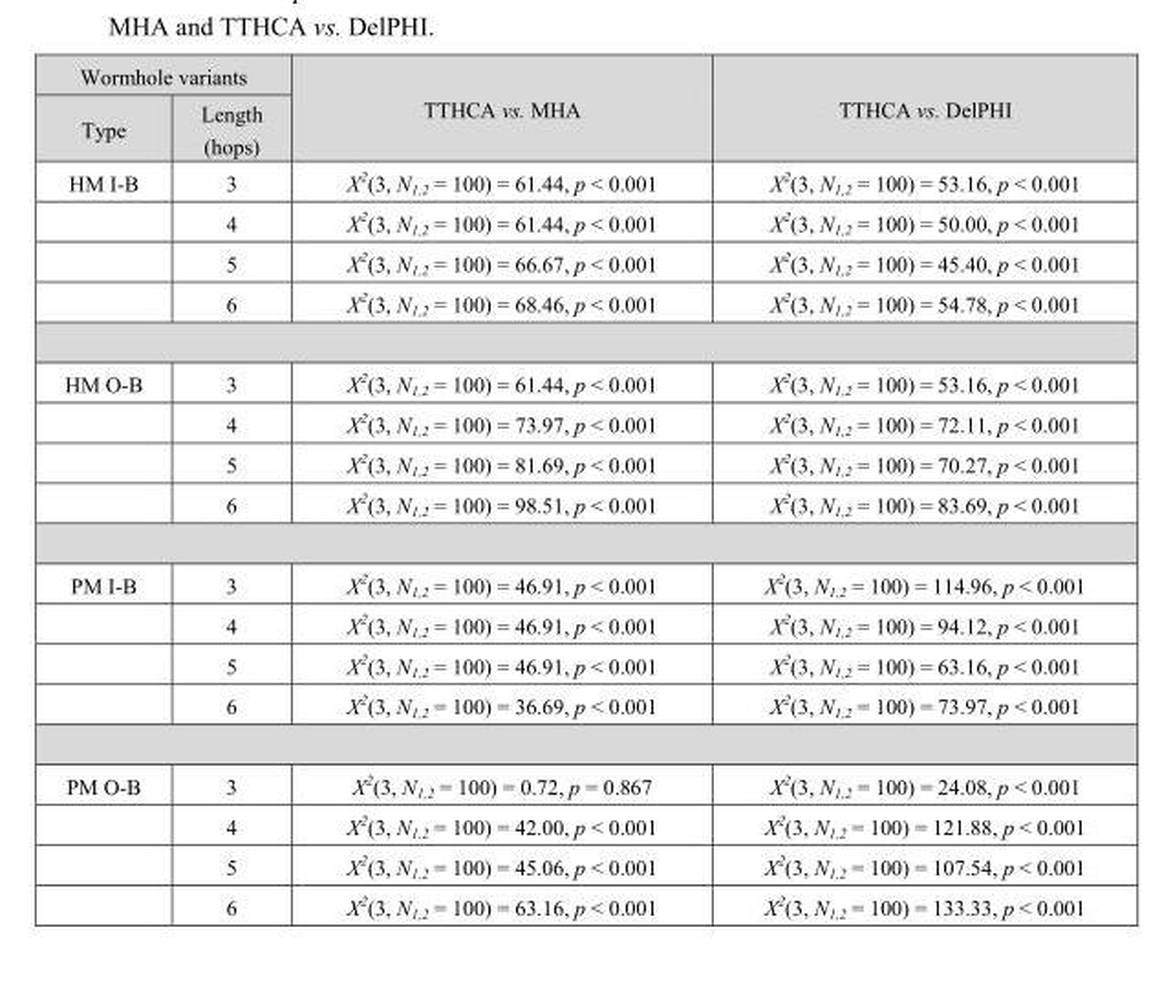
<table><thead><tr><td colspan="2">Wormhole variants</td><td rowspan="2">TTHCA vs. MHA</td><td rowspan="2">TTHCA vs. DelPHI</td></tr><tr><td>Type</td><td>Length (hops)</td></tr></thead><tbody><tr><td rowspan="4">HM I-B</td><td>3</td><td>Χ2(3, N1,2 = 100) = 61.44, p &lt; 0.001</td><td>Χ2(3, N1,2 = 100) = 53.16, p &lt; 0.001</td></tr><tr><td>4</td><td>Χ2(3, N1,2 = 100) = 61.44, p &lt; 0.001</td><td>Χ2(3, N1,2 = 100) = 50.00, p &lt; 0.001</td></tr><tr><td>5</td><td>Χ2(3, N1,2 = 100) = 66.67, p &lt; 0.001</td><td>Χ2(3, N1,2 = 100) = 45.40, p &lt; 0.001</td></tr><tr><td>6</td><td>Χ2(3, N1,2 = 100) = 68.46, p &lt; 0.001</td><td>Χ2(3, N1,2 = 100) = 54.78, p &lt; 0.001</td></tr><tr><td rowspan="4">HM O-B</td><td>3</td><td>Χ2(3, N1,2 = 100) = 61.44, p &lt; 0.001</td><td>Χ2(3, N1,2 = 100) = 53.16, p &lt; 0.001</td></tr><tr><td>4</td><td>Χ2(3, N1,2 = 100) = 73.97, p &lt; 0.001</td><td>Χ2(3, N1,2 = 100) = 72.11, p &lt; 0.001</td></tr><tr><td>5</td><td>Χ2(3, N1,2 = 100) = 81.69, p &lt; 0.001</td><td>Χ2(3, N1,2 = 100) = 70.27, p &lt; 0.001</td></tr><tr><td>6</td><td>Χ2(3, N1,2 = 100) = 98.51, p &lt; 0.001</td><td>Χ2(3, N1,2 = 100) = 83.69, p &lt; 0.001</td></tr><tr><td rowspan="4">PM I-B</td><td>3</td><td>Χ2(3, N1,2 = 100) = 46.91, p &lt; 0.001</td><td>Χ2(3, N1,2 = 100) = 114.96, p &lt; 0.001</td></tr><tr><td>4</td><td>Χ2(3, N1,2 = 100) = 46.91, p &lt; 0.001</td><td>Χ2(3, N1,2 = 100) = 94.12, p &lt; 0.001</td></tr><tr><td>5</td><td>Χ2(3, N1,2 = 100) = 46.91, p &lt; 0.001</td><td>Χ2(3, N1,2 = 100) = 63.16, p &lt; 0.001</td></tr><tr><td>6</td><td>Χ2(3, N1,2 = 100) = 36.69, p &lt; 0.001</td><td>Χ2(3, N1,2 = 100) = 73.97, p &lt; 0.001</td></tr><tr><td rowspan="4">PM O-B</td><td>3</td><td>Χ2(3, N1,2 = 100) = 0.72, p = 0.867</td><td>Χ2(3, N1,2 = 100) = 24.08, p &lt; 0.001</td></tr><tr><td>4</td><td>Χ2(3, N1,2 = 100) = 42.00, p &lt; 0.001</td><td>Χ2(3, N1,2 = 100) = 121.88, p &lt; 0.001</td></tr><tr><td>5</td><td>Χ2(3, N1,2 = 100) = 45.06, p &lt; 0.001</td><td>Χ2(3, N1,2 = 100) = 107.54, p &lt; 0.001</td></tr><tr><td>6</td><td>Χ2(3, N1,2 = 100) = 63.16, p &lt; 0.001</td><td>Χ2(3, N1,2 = 100) = 133.33, p &lt; 0.001</td></tr></tbody></table>